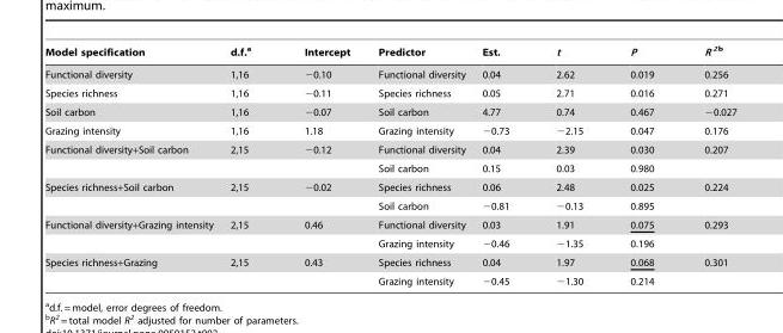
<table><thead><tr><td>Model specification</td><td>d.f.<sup>a</sup></td><td>Intercept</td><td>Predictor</td><td>Est.</td><td>t</td><td>P</td><td>R <sup>2</sup> b</td></tr></thead><tbody><tr><td>Functional diversity</td><td>1,16</td><td>−0.10</td><td>Functional diversity</td><td>0.04</td><td>2.62</td><td>0.019</td><td>0.256</td></tr><tr><td>Species richness</td><td>1,16</td><td>−0.11</td><td>Species richness</td><td>0.05</td><td>2.71</td><td>0.016</td><td>0.271</td></tr><tr><td>Soil carbon</td><td>1,16</td><td>−0.07</td><td>Soil carbon</td><td>4.77</td><td>0.74</td><td>0.467</td><td>−0.027</td></tr><tr><td>Grazing intensity</td><td>1,16</td><td>1.18</td><td>Grazing intensity</td><td>−0.73</td><td>−2.15</td><td>0.047</td><td>0.176</td></tr><tr><td rowspan="2">Functional diversity+Soil carbon</td><td>2,15</td><td>−0.12</td><td>Functional diversity</td><td>0.04</td><td>2.39</td><td>0.030</td><td>0.207</td></tr><tr><td></td><td></td><td>Soil carbon</td><td>0.15</td><td>0.03</td><td>0.980</td><td></td></tr><tr><td rowspan="2">Species richness+Soil carbon</td><td>2,15</td><td>−0.02</td><td>Species richness</td><td>0.06</td><td>2.48</td><td>0.025</td><td>0.224</td></tr><tr><td></td><td></td><td>Soil carbon</td><td>−0.81</td><td>−0.13</td><td>0.895</td><td></td></tr><tr><td rowspan="2">Functional diversity+Grazing intensity</td><td>2,15</td><td>0.46</td><td>Functional diversity</td><td>0.03</td><td>1.91</td><td>0.075</td><td>0.293</td></tr><tr><td></td><td></td><td>Grazing intensity</td><td>−0.46</td><td>−1.35</td><td>0.196</td><td></td></tr><tr><td rowspan="2">Species richness+Grazing</td><td>2,15</td><td>0.43</td><td>Species richness</td><td>0.04</td><td>1.97</td><td>0.068</td><td>0.301</td></tr><tr><td></td><td></td><td>Grazing intensity</td><td>−0.45</td><td>−1.30</td><td>0.214</td><td></td></tr></tbody></table>